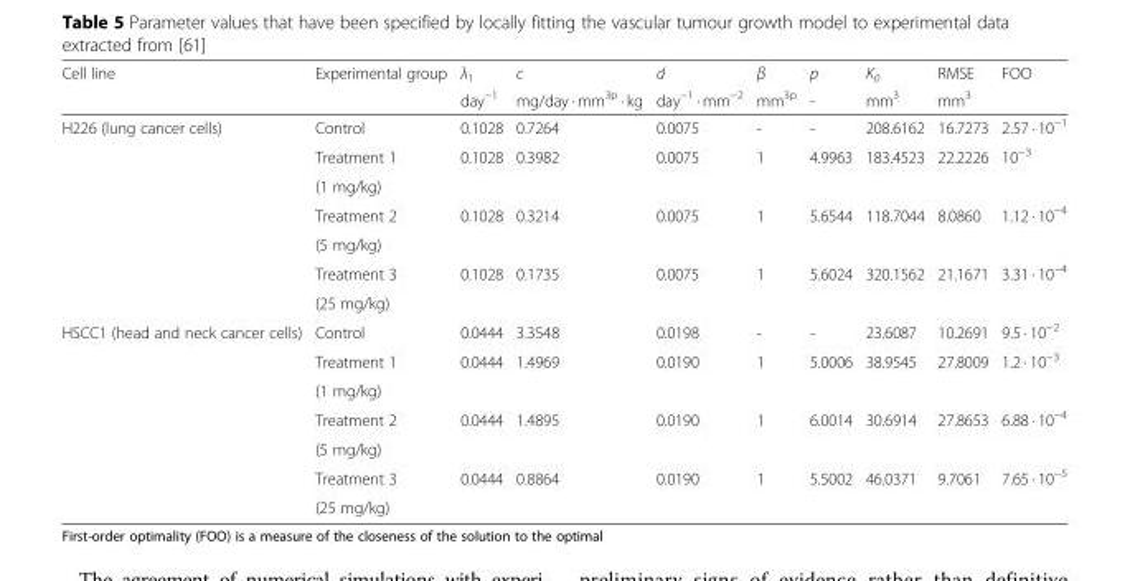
<table><thead><tr><td rowspan="2">Cell line</td><td rowspan="2">Experimental group</td><td rowspan="2">λ<sub>1</sub> day<sup>−1</sup></td><td rowspan="2">c mg/day · mm<sup>3p</sup> · kg</td><td rowspan="2">d day<sup>−1</sup> · mm<sup>−2</sup></td><td rowspan="2">β mm<sup>3p</sup></td><td rowspan="2">p -</td><td rowspan="2">K<sub>0</sub> mm<sup>3</sup></td><td rowspan="2">RMSE mm<sup>3</sup></td><td rowspan="2">FOO</td></tr><tr></tr></thead><tbody><tr><td rowspan="7">H226 (lung cancer cells)</td><td>Control</td><td>0.1028</td><td>0.7264</td><td>0.0075</td><td>-</td><td>-</td><td>208.6162</td><td>16.7273</td><td>2.57 · 10<sup>−1</sup></td></tr><tr><td>Treatment 1</td><td rowspan="2">0.1028</td><td rowspan="2">0.3982</td><td rowspan="2">0.0075</td><td rowspan="2">1</td><td rowspan="2">4.9963</td><td rowspan="2">183.4523</td><td rowspan="2">22.2226</td><td rowspan="2">10<sup>−3</sup></td></tr><tr><td>(1 mg/kg)</td></tr><tr><td>Treatment 2</td><td rowspan="2">0.1028</td><td rowspan="2">0.3214</td><td rowspan="2">0.0075</td><td rowspan="2">1</td><td rowspan="2">5.6544</td><td rowspan="2">118.7044</td><td rowspan="2">8.0860</td><td rowspan="2">1.12 · 10<sup>−4</sup></td></tr><tr><td>(5 mg/kg)</td></tr><tr><td>Treatment 3</td><td rowspan="2">0.1028</td><td rowspan="2">0.1735</td><td rowspan="2">0.0075</td><td rowspan="2">1</td><td rowspan="2">5.6024</td><td rowspan="2">320.1562</td><td rowspan="2">21.1671</td><td rowspan="2">3.31 · 10<sup>−4</sup></td></tr><tr><td>(25 mg/kg)</td></tr><tr><td rowspan="7">HSCC1 (head and neck cancer cells)</td><td>Control</td><td>0.0444</td><td>3.3548</td><td>0.0198</td><td>-</td><td>-</td><td>23.6087</td><td>10.2691</td><td>9.5 · 10<sup>−2</sup></td></tr><tr><td>Treatment 1</td><td rowspan="2">0.0444</td><td rowspan="2">1.4969</td><td rowspan="2">0.0190</td><td rowspan="2">1</td><td rowspan="2">5.0006</td><td rowspan="2">38.9545</td><td rowspan="2">27.8009</td><td rowspan="2">1.2 · 10<sup>−3</sup></td></tr><tr><td>(1 mg/kg)</td></tr><tr><td>Treatment 2</td><td rowspan="2">0.0444</td><td rowspan="2">1.4895</td><td rowspan="2">0.0190</td><td rowspan="2">1</td><td rowspan="2">6.0014</td><td rowspan="2">30.6914</td><td rowspan="2">27.8653</td><td rowspan="2">6.88 · 10<sup>−4</sup></td></tr><tr><td>(5 mg/kg)</td></tr><tr><td>Treatment 3</td><td rowspan="2">0.0444</td><td rowspan="2">0.8864</td><td rowspan="2">0.0190</td><td rowspan="2">1</td><td rowspan="2">5.5002</td><td rowspan="2">46.0371</td><td rowspan="2">9.7061</td><td rowspan="2">7.65 · 10<sup>−5</sup></td></tr><tr><td>(25 mg/kg)</td></tr></tbody></table>